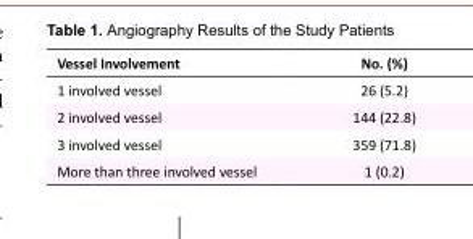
<table><tbody><tr><td>Vessel Involvement</td><td>No. (%)</td></tr><tr><td>1 involved vessel</td><td>26 (5.2)</td></tr><tr><td>2 involved vessel</td><td>144 (22.8)</td></tr><tr><td>3 involved vessel</td><td>359 (71.8)</td></tr><tr><td>More than three involved vessel</td><td>1 (0.2)</td></tr></tbody></table>